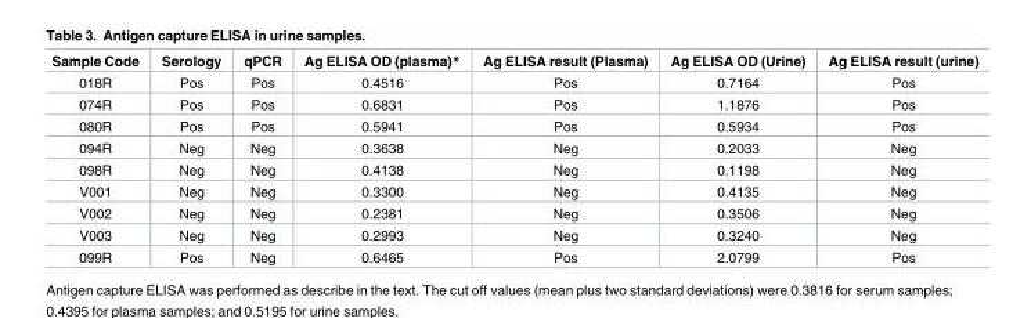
<table><thead><tr><td>Sample Code</td><td>Serology</td><td>qPCR</td><td>Ag ELISA OD (plasma)*</td><td>Ag ELISA result (Plasma)</td><td>Ag ELISA OD (Urine)</td><td>Ag ELISA result (urine)</td></tr></thead><tbody><tr><td>018R</td><td>Pos</td><td>Pos</td><td>0.4516</td><td>Pos</td><td>0.7164</td><td>Pos</td></tr><tr><td>074R</td><td>Pos</td><td>Pos</td><td>0.6831</td><td>Pos</td><td>1.1876</td><td>Pos</td></tr><tr><td>080R</td><td>Pos</td><td>Pos</td><td>0.5941</td><td>Pos</td><td>0.5934</td><td>Pos</td></tr><tr><td>094R</td><td>Neg</td><td>Neg</td><td>0.3638</td><td>Neg</td><td>0.2033</td><td>Neg</td></tr><tr><td>098R</td><td>Neg</td><td>Neg</td><td>0.4138</td><td>Neg</td><td>0.1198</td><td>Neg</td></tr><tr><td>V001</td><td>Neg</td><td>Neg</td><td>0.3300</td><td>Neg</td><td>0.4135</td><td>Neg</td></tr><tr><td>V002</td><td>Neg</td><td>Neg</td><td>0.2381</td><td>Neg</td><td>0.3506</td><td>Neg</td></tr><tr><td>V003</td><td>Neg</td><td>Neg</td><td>0.2993</td><td>Neg</td><td>0.3240</td><td>Neg</td></tr><tr><td>099R</td><td>Pos</td><td>Neg</td><td>0.6465</td><td>Pos</td><td>2.0799</td><td>Pos</td></tr></tbody></table>